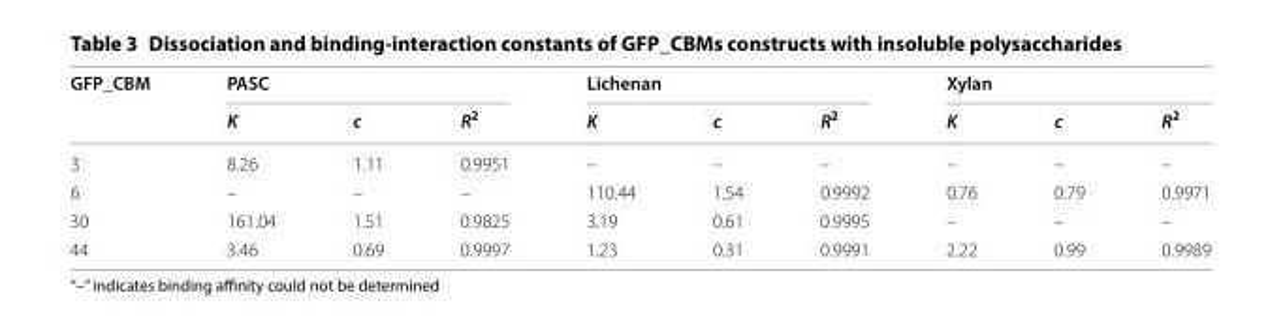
<table><thead><tr><td rowspan="2">GFP_CBM</td><td colspan="3">PASC</td><td colspan="3">Lichenan</td><td colspan="3">Xylan</td></tr><tr><td>K</td><td>c</td><td>R<sup>2</sup></td><td>K</td><td>c</td><td>R<sup>2</sup></td><td>K</td><td>c</td><td>R<sup>2</sup></td></tr></thead><tbody><tr><td>3</td><td>8.26</td><td>1.11</td><td>0.9951</td><td>–</td><td>–</td><td>–</td><td>–</td><td>–</td><td>–</td></tr><tr><td>6</td><td>–</td><td>–</td><td>–</td><td>110.44</td><td>1.54</td><td>0.9992</td><td>0.76</td><td>0.79</td><td>0.9971</td></tr><tr><td>30</td><td>161.04</td><td>1.51</td><td>0.9825</td><td>3.19</td><td>0.61</td><td>0.9995</td><td>–</td><td>–</td><td>–</td></tr><tr><td>44</td><td>3.46</td><td>0.69</td><td>0.9997</td><td>1.23</td><td>0.31</td><td>0.9991</td><td>2.22</td><td>0.99</td><td>0.9989</td></tr></tbody></table>